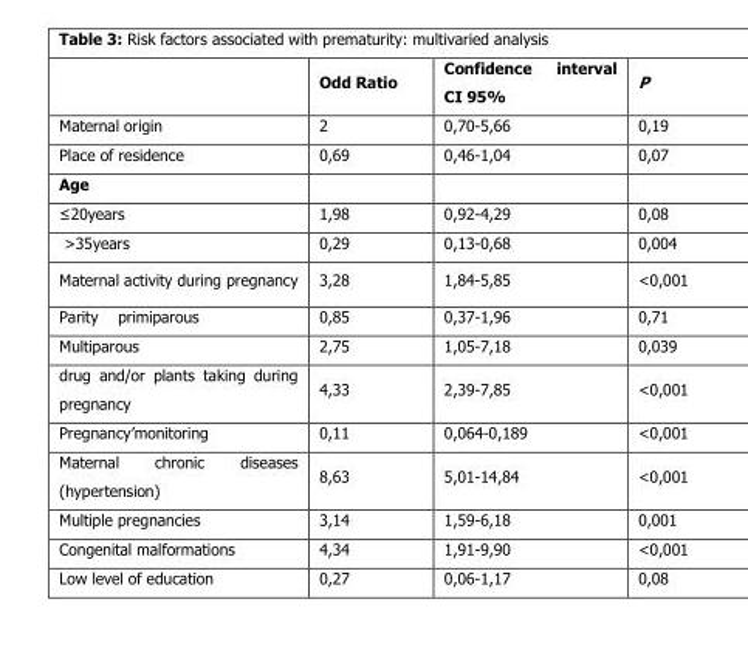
<table><thead><tr><td></td><td>Odd Ratio</td><td>Confidence interval CI 95%</td><td>P</td></tr></thead><tbody><tr><td>Maternal origin</td><td>2</td><td>0,70-5,66</td><td>0,19</td></tr><tr><td>Place of residence</td><td>0,69</td><td>0,46-1,04</td><td>0,07</td></tr><tr><td colspan="4">Age</td></tr><tr><td>≤20years</td><td>1,98</td><td>0,92-4,29</td><td>0,08</td></tr><tr><td>&gt;35years</td><td>0,29</td><td>0,13-0,68</td><td>0,004</td></tr><tr><td>Maternal activity during pregnancy</td><td>3,28</td><td>1,84-5,85</td><td>&lt;0,001</td></tr><tr><td>Parity primiparous</td><td>0,85</td><td>0,37-1,96</td><td>0,71</td></tr><tr><td>Multiparous</td><td>2,75</td><td>1,05-7,18</td><td>0,039</td></tr><tr><td>drug and/or plants taking during pregnancy</td><td>4,33</td><td>2,39-7,85</td><td>&lt;0,001</td></tr><tr><td>Pregnancy’monitoring</td><td>0,11</td><td>0,064-0,189</td><td>&lt;0,001</td></tr><tr><td>Maternal chronic diseases (hypertension)</td><td>8,63</td><td>5,01-14,84</td><td>&lt;0,001</td></tr><tr><td>Multiple pregnancies</td><td>3,14</td><td>1,59-6,18</td><td>0,001</td></tr><tr><td>Congenital malformations</td><td>4,34</td><td>1,91-9,90</td><td>&lt;0,001</td></tr><tr><td>Low level of education</td><td>0,27</td><td>0,06-1,17</td><td>0,08</td></tr></tbody></table>